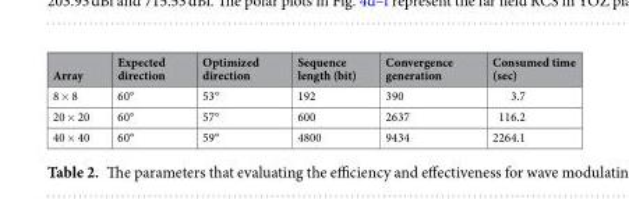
<table><thead><tr><td>Array</td><td>Expected direction</td><td>Optimized direction</td><td>Sequence length (bit)</td><td>Convergence generation</td><td>Consumed time (sec)</td></tr></thead><tbody><tr><td>8 × 8</td><td>60°</td><td>53°</td><td>192</td><td>390</td><td>3.7</td></tr><tr><td>20 × 20</td><td>60°</td><td>57°</td><td>600</td><td>2637</td><td>116.2</td></tr><tr><td>40 × 40</td><td>60°</td><td>59°</td><td>4800</td><td>9434</td><td>2264.1</td></tr></tbody></table>